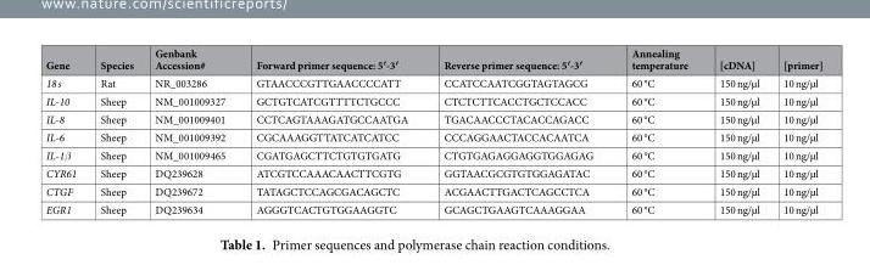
<table><thead><tr><td>Gene</td><td>Species</td><td>Genbank Accession#</td><td>Forward primer sequence: 5′-3′</td><td>Reverse primer sequence: 5′-3′</td><td>Annealing temperature</td><td>[cDNA]</td><td>[primer]</td></tr></thead><tbody><tr><td>18 s</td><td>Rat</td><td>NR_003286</td><td>GTAACCCGTTGAACCCCATT</td><td>CCATCCAATCGGTAGTAGCG</td><td>60 °C</td><td>150 ng/µl</td><td>10 ng/µl</td></tr><tr><td>IL-10</td><td>Sheep</td><td>NM_001009327</td><td>GCTGTCATCGTTTTCTGCCC</td><td>CTCTCTTCACCTGCTCCACC</td><td>60 °C</td><td>150 ng/µl</td><td>10 ng/µl</td></tr><tr><td>IL-8</td><td>Sheep</td><td>NM_001009401</td><td>CCTCAGTAAAGATGCCAATGA</td><td>TGACAACCCTACACCAGACC</td><td>60 °C</td><td>150 ng/µl</td><td>10 ng/µl</td></tr><tr><td>IL-6</td><td>Sheep</td><td>NM_001009392</td><td>CGCAAAGGTTATCATCATCC</td><td>CCCAGGAACTACCACAATCA</td><td>60 °C</td><td>150 ng/µl</td><td>10 ng/µl</td></tr><tr><td>IL-1β</td><td>Sheep</td><td>NM_001009465</td><td>CGATGAGCTTCTGTGTGATG</td><td>CTGTGAGAGGAGGTGGAGAG</td><td>60 °C</td><td>150 ng/µl</td><td>10 ng/µl</td></tr><tr><td>CYR61</td><td>Sheep</td><td>DQ239628</td><td>ATCGTCCAAACAACTTCGTG</td><td>GGTAACGCGTGTGGAGATAC</td><td>60 °C</td><td>150 ng/µl</td><td>10 ng/µl</td></tr><tr><td>CTGF</td><td>Sheep</td><td>DQ239672</td><td>TATAGCTCCAGCGACAGCTC</td><td>ACGAACTTGACTCAGCCTCA</td><td>60 °C</td><td>150 ng/µl</td><td>10 ng/µl</td></tr><tr><td>EGR1</td><td>Sheep</td><td>DQ239634</td><td>AGGGTCACTGTGGAAGGTC</td><td>GCAGCTGAAGTCAAAGGAA</td><td>60 °C</td><td>150 ng/µl</td><td>10 ng/µl</td></tr></tbody></table>